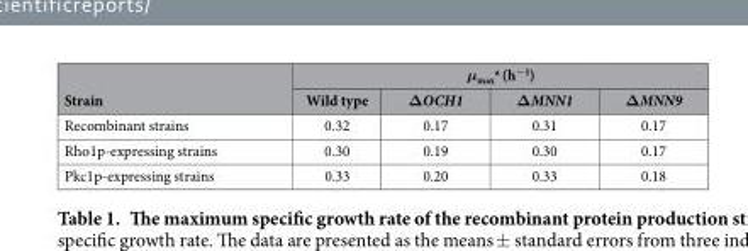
<table><thead><tr><td rowspan="2">Strain</td><td colspan="4">μ<sub>max</sub> <sup>a</sup> (h<sup>−1</sup>)</td></tr><tr><td>Wild type</td><td>ΔOCH1</td><td>ΔMNN1</td><td>ΔMNN9</td></tr></thead><tbody><tr><td>Recombinant strains</td><td>0.32</td><td>0.17</td><td>0.31</td><td>0.17</td></tr><tr><td>Rho1p-expressing strains</td><td>0.30</td><td>0.19</td><td>0.30</td><td>0.17</td></tr><tr><td>Pkc1p-expressing strains</td><td>0.33</td><td>0.20</td><td>0.33</td><td>0.18</td></tr></tbody></table>